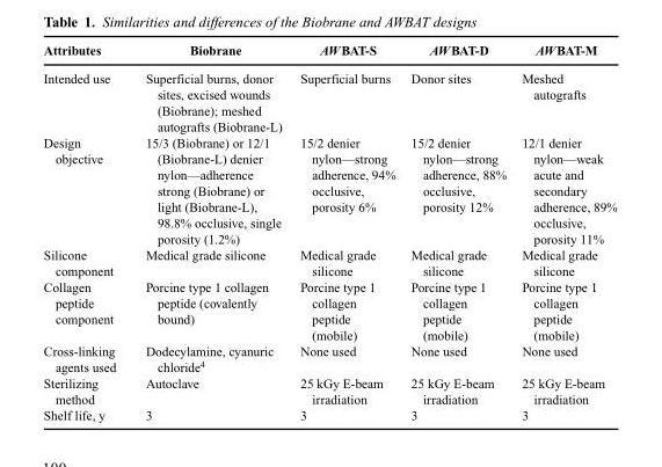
<table><thead><tr><td>Attributes</td><td>Biobrane</td><td>AWBAT-S</td><td>AWBAT-D</td><td>AWBAT-M</td></tr></thead><tbody><tr><td>Intended use</td><td>Superficial burns, donor sites, excised wounds (Biobrane); meshed autografts (Biobrane-L)</td><td>Superficial burns</td><td>Donor sites</td><td>Meshed autografts</td></tr><tr><td>Design objective</td><td>15/3 (Biobrane) or 12/1 (Biobrane-L) denier nylon—adherence strong (Biobrane) or light (Biobrane-L), 98.8% occlusive, single porosity (1.2%)</td><td>15/2 denier nylon—strong adherence, 94% occlusive, porosity 6%</td><td>15/2 denier nylon—strong adherence, 88% occlusive, porosity 12%</td><td>12/1 denier nylon—weak acute and secondary adherence, 89% occlusive, porosity 11%</td></tr><tr><td>Silicone component</td><td>Medical grade silicone</td><td>Medical grade silicone</td><td>Medical grade silicone</td><td>Medical grade silicone</td></tr><tr><td>Collagen peptide component</td><td>Porcine type 1 collagen peptide (covalently bound)</td><td>Porcine type 1 collagen peptide (mobile)</td><td>Porcine type 1 collagen peptide (mobile)</td><td>Porcine type 1 collagen peptide (mobile)</td></tr><tr><td>Cross-linking agents used</td><td>Dodecylamine, cyanuric chloride<sup>4</sup></td><td>None used</td><td>None used</td><td>None used</td></tr><tr><td>Sterilizing method</td><td>Autoclave</td><td>25 kGy E-beam irradiation</td><td>25 kGy E-beam irradiation</td><td>25 kGy E-beam irradiation</td></tr><tr><td>Shelf life, y</td><td>3</td><td>3</td><td>3</td><td>3</td></tr></tbody></table>